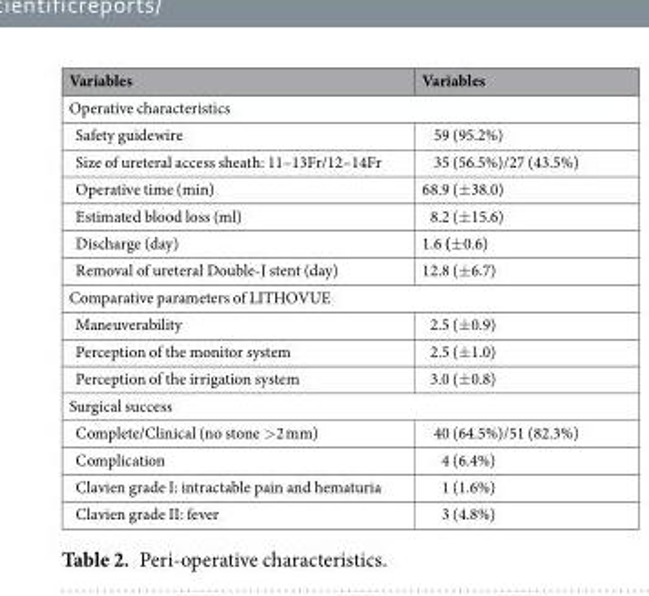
<table><thead><tr><td>Variables</td><td>Variables</td></tr></thead><tbody><tr><td colspan="2">Operative characteristics</td></tr><tr><td>Safety guidewire</td><td>59 (95.2%)</td></tr><tr><td>Size of ureteral access sheath: 11–13Fr/12–14Fr</td><td>35 (56.5%)/27 (43.5%)</td></tr><tr><td>Operative time (min)</td><td>68.9 (±38.0)</td></tr><tr><td>Estimated blood loss (ml)</td><td>8.2 (±15.6)</td></tr><tr><td>Discharge (day)</td><td>1.6 (±0.6)</td></tr><tr><td>Removal of ureteral Double-J stent (day)</td><td>12.8 (±6.7)</td></tr><tr><td colspan="2">Comparative parameters of LITHOVUE</td></tr><tr><td>Maneuverability</td><td>2.5 (±0.9)</td></tr><tr><td>Perception of the monitor system</td><td>2.5 (±1.0)</td></tr><tr><td>Perception of the irrigation system</td><td>3.0 (±0.8)</td></tr><tr><td colspan="2">Surgical success</td></tr><tr><td>Complete/Clinical (no stone &gt;2 mm)</td><td>40 (64.5%)/51 (82.3%)</td></tr><tr><td>Complication</td><td>4 (6.4%)</td></tr><tr><td>Clavien grade I: intractable pain and hematuria</td><td>1 (1.6%)</td></tr><tr><td>Clavien grade II: fever</td><td>3 (4.8%)</td></tr></tbody></table>